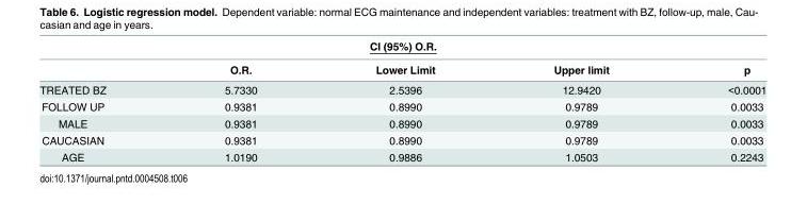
<table><thead><tr><td colspan="5">CI (95%) O.R.</td></tr><tr><td></td><td>O.R.</td><td>Lower Limit</td><td>Upper limit</td><td>p</td></tr></thead><tbody><tr><td>TREATED BZ</td><td>5.7330</td><td>2.5396</td><td>12.9420</td><td>&lt;0.0001</td></tr><tr><td>FOLLOW UP</td><td>0.9381</td><td>0.8990</td><td>0.9789</td><td>0.0033</td></tr><tr><td>MALE</td><td>0.9381</td><td>0.8990</td><td>0.9789</td><td>0.0033</td></tr><tr><td>CAUCASIAN</td><td>0.9381</td><td>0.8990</td><td>0.9789</td><td>0.0033</td></tr><tr><td>AGE</td><td>1.0190</td><td>0.9886</td><td>1.0503</td><td>0.2243</td></tr></tbody></table>